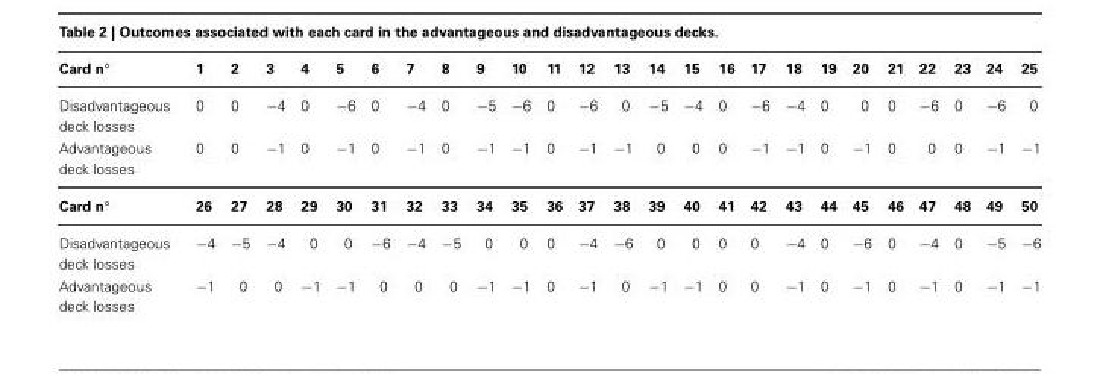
<table><thead><tr><td>Card n◦</td><td>1</td><td>2</td><td>3</td><td>4</td><td>5</td><td>6</td><td>7</td><td>8</td><td>9</td><td>10</td><td>11</td><td>12</td><td>13</td><td>14</td><td>15</td><td>16</td><td>17</td><td>18</td><td>19</td><td>20</td><td>21</td><td>22</td><td>23</td><td>24</td><td>25</td></tr></thead><tbody><tr><td>Disadvantageous deck losses</td><td>0</td><td>0</td><td>−4</td><td>0</td><td>−6</td><td>0</td><td>−4</td><td>0</td><td>−5</td><td>−6</td><td>0</td><td>−6</td><td>0</td><td>−5</td><td>−4</td><td>0</td><td>−6</td><td>−4</td><td>0</td><td>0</td><td>0</td><td>−6</td><td>0</td><td>−6</td><td>0</td></tr><tr><td>Advantageous deck losses</td><td>0</td><td>0</td><td>−1</td><td>0</td><td>−1</td><td>0</td><td>−1</td><td>0</td><td>−1</td><td>−1</td><td>0</td><td>−1</td><td>−1</td><td>0</td><td>0</td><td>0</td><td>−1</td><td>−1</td><td>0</td><td>−1</td><td>0</td><td>0</td><td>0</td><td>−1</td><td>−1</td></tr><tr><td>Card n◦</td><td>26</td><td>27</td><td>28</td><td>29</td><td>30</td><td>31</td><td>32</td><td>33</td><td>34</td><td>35</td><td>36</td><td>37</td><td>38</td><td>39</td><td>40</td><td>41</td><td>42</td><td>43</td><td>44</td><td>45</td><td>46</td><td>47</td><td>48</td><td>49</td><td>50</td></tr><tr><td>Disadvantageous deck losses</td><td>−4</td><td>−5</td><td>−4</td><td>0</td><td>0</td><td>−6</td><td>−4</td><td>−5</td><td>0</td><td>0</td><td>0</td><td>−4</td><td>−6</td><td>0</td><td>0</td><td>0</td><td>0</td><td>−4</td><td>0</td><td>−6</td><td>0</td><td>−4</td><td>0</td><td>−5</td><td>−6</td></tr><tr><td>Advantageous deck losses</td><td>−1</td><td>0</td><td>0</td><td>−1</td><td>−1</td><td>0</td><td>0</td><td>0</td><td>−1</td><td>−1</td><td>0</td><td>−1</td><td>0</td><td>−1</td><td>−1</td><td>0</td><td>0</td><td>−1</td><td>0</td><td>−1</td><td>0</td><td>−1</td><td>0</td><td>−1</td><td>−1</td></tr></tbody></table>